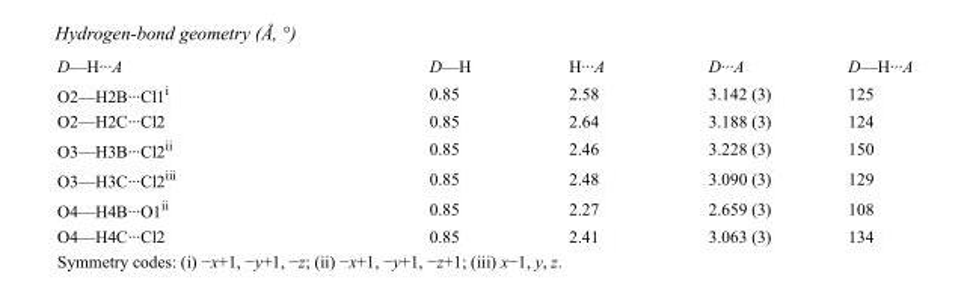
<table><tbody><tr><td>D—H···A</td><td>D—H</td><td>H···A</td><td>D···A</td><td>D—H···A</td></tr><tr><td>O2—H2B···Cl1<sup>i</sup></td><td>0.85</td><td>2.58</td><td>3.142 (3)</td><td>125</td></tr><tr><td>O2—H2C···Cl2</td><td>0.85</td><td>2.64</td><td>3.188 (3)</td><td>124</td></tr><tr><td>O3—H3B···Cl2<sup>ii</sup></td><td>0.85</td><td>2.46</td><td>3.228 (3)</td><td>150</td></tr><tr><td>O3—H3C···Cl2<sup>iii</sup></td><td>0.85</td><td>2.48</td><td>3.090 (3)</td><td>129</td></tr><tr><td>O4—H4B···O1<sup>ii</sup></td><td>0.85</td><td>2.27</td><td>2.659 (3)</td><td>108</td></tr><tr><td>O4—H4C···Cl2</td><td>0.85</td><td>2.41</td><td>3.063 (3)</td><td>134</td></tr></tbody></table>